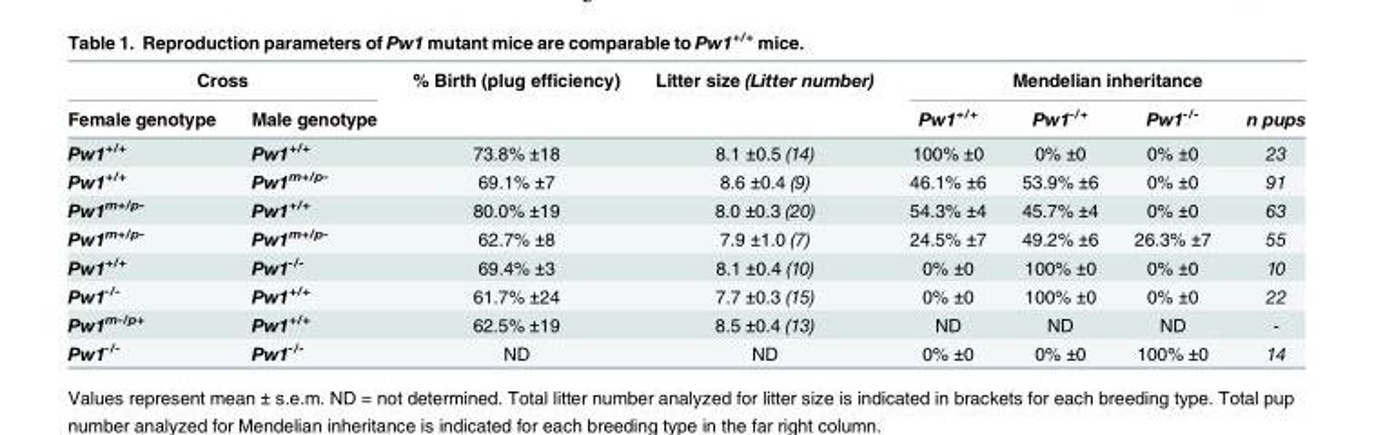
<table><thead><tr><td colspan="2">Cross</td><td rowspan="2">% Birth (plug efficiency)</td><td rowspan="2">Litter size (Litter number)</td><td colspan="4">Mendelian inheritance</td></tr><tr><td>Female genotype</td><td>Male genotype</td><td>Pw1<sup>+/+</sup></td><td>Pw1<sup>-/+</sup></td><td>Pw1<sup>-/-</sup></td><td>n pups</td></tr></thead><tbody><tr><td>Pw1<sup>+/+</sup></td><td>Pw1<sup>+/+</sup></td><td>73.8% ±18</td><td>8.1 ±0.5 (14)</td><td>100% ±0</td><td>0% ±0</td><td>0% ±0</td><td>23</td></tr><tr><td>Pw1<sup>+/+</sup></td><td>Pw1<sup>m+/p-</sup></td><td>69.1% ±7</td><td>8.6 ±0.4 (9)</td><td>46.1% ±6</td><td>53.9% ±6</td><td>0% ±0</td><td>91</td></tr><tr><td>Pw1<sup>m+/p-</sup></td><td>Pw1<sup>+/+</sup></td><td>80.0% ±19</td><td>8.0 ±0.3 (20)</td><td>54.3% ±4</td><td>45.7% ±4</td><td>0% ±0</td><td>63</td></tr><tr><td>Pw1<sup>m+/p-</sup></td><td>Pw1<sup>m+/p-</sup></td><td>62.7% ±8</td><td>7.9 ±1.0 (7)</td><td>24.5% ±7</td><td>49.2% ±6</td><td>26.3% ±7</td><td>55</td></tr><tr><td>Pw1<sup>+/+</sup></td><td>Pw1<sup>-/-</sup></td><td>69.4% ±3</td><td>8.1 ±0.4 (10)</td><td>0% ±0</td><td>100% ±0</td><td>0% ±0</td><td>10</td></tr><tr><td>Pw1<sup>-/-</sup></td><td>Pw1<sup>+/+</sup></td><td>61.7% ±24</td><td>7.7 ±0.3 (15)</td><td>0% ±0</td><td>100% ±0</td><td>0% ±0</td><td>22</td></tr><tr><td>Pw1<sup>m-/p+</sup></td><td>Pw1<sup>+/+</sup></td><td>62.5% ±19</td><td>8.5 ±0.4 (13)</td><td>ND</td><td>ND</td><td>ND</td><td>-</td></tr><tr><td>Pw1<sup>-/-</sup></td><td>Pw1<sup>-/-</sup></td><td>ND</td><td>ND</td><td>0% ±0</td><td>0% ±0</td><td>100% ±0</td><td>14</td></tr></tbody></table>